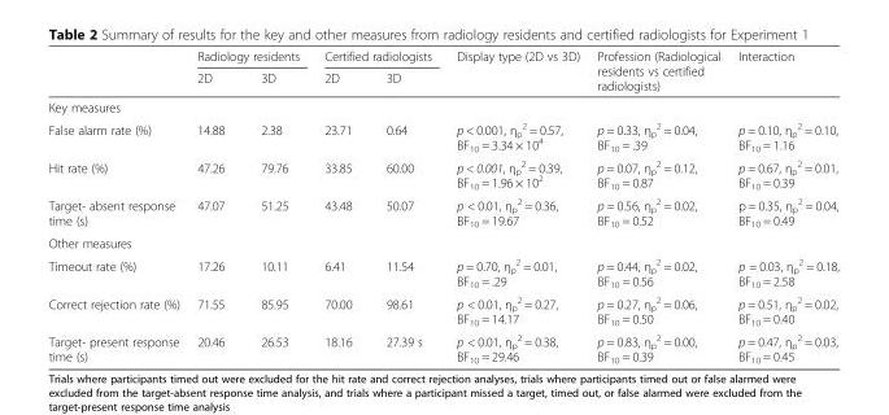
<table><thead><tr><td rowspan="2"></td><td colspan="2">Radiology residents</td><td colspan="2">Certified radiologists</td><td rowspan="2">Display type (2D vs 3D)</td><td rowspan="2">Profession (Radiological residents vs certified radiologists)</td><td rowspan="2">Interaction</td></tr><tr><td>2D</td><td>3D</td><td>2D</td><td>3D</td></tr></thead><tbody><tr><td colspan="8">Key measures</td></tr><tr><td>False alarm rate (%)</td><td>14.88</td><td>2.38</td><td>23.71</td><td>0.64</td><td>p &lt; 0.001, η<sub>p</sub> <sup>2</sup> = 0.57, BF<sub>10</sub> = 3.34 × 10<sup>4</sup></td><td>p = 0.33, η<sub>p</sub> <sup>2</sup> = 0.04, BF<sub>10</sub> = .39</td><td>p = 0.10, η<sub>p</sub> <sup>2</sup> = 0.10, BF<sub>10</sub> = 1.16</td></tr><tr><td>Hit rate (%)</td><td>47.26</td><td>79.76</td><td>33.85</td><td>60.00</td><td>p &lt; 0.001, η<sub>p</sub> <sup>2</sup> = 0.39, BF<sub>10</sub> = 1.96 × 10<sup>2</sup></td><td>p = 0.07, η<sub>p</sub> <sup>2</sup> = 0.12, BF<sub>10</sub> = 0.87</td><td>p = 0.67, η<sub>p</sub> <sup>2</sup> = 0.01, BF<sub>10</sub> = 0.39</td></tr><tr><td>Target- absent response time (s)</td><td>47.07</td><td>51.25</td><td>43.48</td><td>50.07</td><td>p &lt; 0.01, η<sub>p</sub> <sup>2</sup> = 0.36, BF<sub>10</sub> = 19.67</td><td>p = 0.56, η<sub>p</sub> <sup>2</sup> = 0.02, BF<sub>10</sub> = 0.52</td><td>p = 0.35, η<sub>p</sub> <sup>2</sup> = 0.04, BF<sub>10</sub> = 0.49</td></tr><tr><td colspan="8">Other measures</td></tr><tr><td>Timeout rate (%)</td><td>17.26</td><td>10.11</td><td>6.41</td><td>11.54</td><td>p = 0.70, η<sub>p</sub> <sup>2</sup> = 0.01, BF<sub>10</sub> = .29</td><td>p = 0.44, η<sub>p</sub> <sup>2</sup> = 0.02, BF<sub>10</sub> = 0.56</td><td>p = 0.03, η<sub>p</sub> <sup>2</sup> = 0.18, BF<sub>10</sub> = 2.58</td></tr><tr><td>Correct rejection rate (%)</td><td>71.55</td><td>85.95</td><td>70.00</td><td>98.61</td><td>p &lt; 0.01, η<sub>p</sub> <sup>2</sup> = 0.27, BF<sub>10</sub> = 14.17</td><td>p = 0.27, η<sub>p</sub> <sup>2</sup> = 0.06, BF<sub>10</sub> = 0.50</td><td>p = 0.51, η<sub>p</sub> <sup>2</sup> = 0.02, BF<sub>10</sub> = 0.40</td></tr><tr><td>Target- present response time (s)</td><td>20.46</td><td>26.53</td><td>18.16</td><td>27.39 s</td><td>p &lt; 0.01, η<sub>p</sub> <sup>2</sup> = 0.38, BF<sub>10</sub> = 29.46</td><td>p = 0.83, η<sub>p</sub> <sup>2</sup> = 0.00, BF<sub>10</sub> = 0.39</td><td>p = 0.47, η<sub>p</sub> <sup>2</sup> = 0.03, BF<sub>10</sub> = 0.45</td></tr></tbody></table>